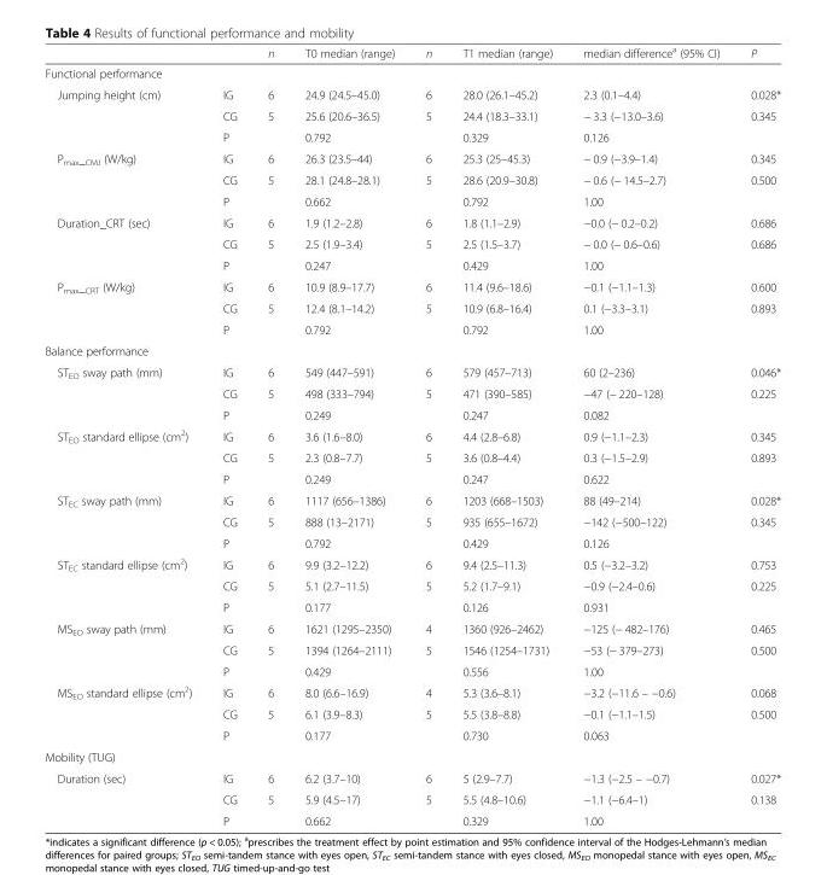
<table><thead><tr><td></td><td></td><td>n</td><td>T0 median (range)</td><td>n</td><td>T1 median (range)</td><td>median difference<sup>a</sup> (95% CI)</td><td>P</td></tr></thead><tbody><tr><td colspan="8">Functional performance</td></tr><tr><td rowspan="3">Jumping height (cm)</td><td>IG</td><td>6</td><td>24.9 (24.5–45.0)</td><td>6</td><td>28.0 (26.1–45.2)</td><td>2.3 (0.1–4.4)</td><td>0.028*</td></tr><tr><td>CG</td><td>5</td><td>25.6 (20.6–36.5)</td><td>5</td><td>24.4 (18.3–33.1)</td><td>− 3.3 (−13.0–3.6)</td><td>0.345</td></tr><tr><td>P</td><td></td><td>0.792</td><td></td><td>0.329</td><td>0.126</td><td></td></tr><tr><td rowspan="3">Pmax_CMJ (W/kg)</td><td>IG</td><td>6</td><td>26.3 (23.5–44)</td><td>6</td><td>25.3 (25–45.3)</td><td>− 0.9 (−3.9–1.4)</td><td>0.345</td></tr><tr><td>CG</td><td>5</td><td>28.1 (24.8–28.1)</td><td>5</td><td>28.6 (20.9–30.8)</td><td>− 0.6 (− 14.5–2.7)</td><td>0.500</td></tr><tr><td>P</td><td></td><td>0.662</td><td></td><td>0.792</td><td>1.00</td><td></td></tr><tr><td rowspan="3">Duration_CRT (sec)</td><td>IG</td><td>6</td><td>1.9 (1.2–2.8)</td><td>6</td><td>1.8 (1.1–2.9)</td><td>−0.0 (− 0.2–0.2)</td><td>0.686</td></tr><tr><td>CG</td><td>5</td><td>2.5 (1.9–3.4)</td><td>5</td><td>2.5 (1.5–3.7)</td><td>− 0.0 (− 0.6–0.6)</td><td>0.686</td></tr><tr><td>P</td><td></td><td>0.247</td><td></td><td>0.429</td><td>1.00</td><td></td></tr><tr><td rowspan="3">Pmax_CRT (W/kg)</td><td>IG</td><td>6</td><td>10.9 (8.9–17.7)</td><td>6</td><td>11.4 (9.6–18.6)</td><td>−0.1 (−1.1–1.3)</td><td>0.600</td></tr><tr><td>CG</td><td>5</td><td>12.4 (8.1–14.2)</td><td>5</td><td>10.9 (6.8–16.4)</td><td>0.1 (−3.3–3.1)</td><td>0.893</td></tr><tr><td>P</td><td></td><td>0.792</td><td></td><td>0.792</td><td>1.00</td><td></td></tr><tr><td colspan="8">Balance performance</td></tr><tr><td rowspan="3">ST<sub>EO</sub> sway path (mm)</td><td>IG</td><td>6</td><td>549 (447–591)</td><td>6</td><td>579 (457–713)</td><td>60 (2–236)</td><td>0.046*</td></tr><tr><td>CG</td><td>5</td><td>498 (333–794)</td><td>5</td><td>471 (390–585)</td><td>−47 (− 220–128)</td><td>0.225</td></tr><tr><td>P</td><td></td><td>0.249</td><td></td><td>0.247</td><td>0.082</td><td></td></tr><tr><td rowspan="3">ST<sub>EO</sub> standard ellipse (cm<sup>2</sup>)</td><td>IG</td><td>6</td><td>3.6 (1.6–8.0)</td><td>6</td><td>4.4 (2.8–6.8)</td><td>0.9 (−1.1–2.3)</td><td>0.345</td></tr><tr><td>CG</td><td>5</td><td>2.3 (0.8–7.7)</td><td>5</td><td>3.6 (0.8–4.4)</td><td>0.3 (−1.5–2.9)</td><td>0.893</td></tr><tr><td>P</td><td></td><td>0.249</td><td></td><td>0.247</td><td>0.622</td><td></td></tr><tr><td rowspan="3">ST<sub>EC</sub> sway path (mm)</td><td>IG</td><td>6</td><td>1117 (656–1386)</td><td>6</td><td>1203 (668–1503)</td><td>88 (49–214)</td><td>0.028*</td></tr><tr><td>CG</td><td>5</td><td>888 (13–2171)</td><td>5</td><td>935 (655–1672)</td><td>−142 (−500–122)</td><td>0.345</td></tr><tr><td>P</td><td></td><td>0.792</td><td></td><td>0.429</td><td>0.126</td><td></td></tr><tr><td rowspan="3">ST<sub>EC</sub> standard ellipse (cm<sup>2</sup>)</td><td>IG</td><td>6</td><td>9.9 (3.2–12.2)</td><td>6</td><td>9.4 (2.5–11.3)</td><td>0.5 (−3.2–3.2)</td><td>0.753</td></tr><tr><td>CG</td><td>5</td><td>5.1 (2.7–11.5)</td><td>5</td><td>5.2 (1.7–9.1)</td><td>−0.9 (−2.4–0.6)</td><td>0.225</td></tr><tr><td>P</td><td></td><td>0.177</td><td></td><td>0.126</td><td>0.931</td><td></td></tr><tr><td rowspan="3">MS<sub>EO</sub> sway path (mm)</td><td>IG</td><td>6</td><td>1621 (1295–2350)</td><td>4</td><td>1360 (926–2462)</td><td>−125 (− 482–176)</td><td>0.465</td></tr><tr><td>CG</td><td>5</td><td>1394 (1264–2111)</td><td>5</td><td>1546 (1254–1731)</td><td>−53 (− 379–273)</td><td>0.500</td></tr><tr><td>P</td><td></td><td>0.429</td><td></td><td>0.556</td><td>1.00</td><td></td></tr><tr><td rowspan="3">MS<sub>EO</sub> standard ellipse (cm<sup>2</sup>)</td><td>IG</td><td>6</td><td>8.0 (6.6–16.9)</td><td>4</td><td>5.3 (3.6–8.1)</td><td>−3.2 (−11.6 – −0.6)</td><td>0.068</td></tr><tr><td>CG</td><td>5</td><td>6.1 (3.9–8.3)</td><td>5</td><td>5.5 (3.8–8.8)</td><td>−0.1 (−1.1–1.5)</td><td>0.500</td></tr><tr><td>P</td><td></td><td>0.177</td><td></td><td>0.730</td><td>0.063</td><td></td></tr><tr><td colspan="8">Mobility (TUG)</td></tr><tr><td rowspan="3">Duration (sec)</td><td>IG</td><td>6</td><td>6.2 (3.7–10)</td><td>6</td><td>5 (2.9–7.7)</td><td>−1.3 (−2.5 – −0.7)</td><td>0.027*</td></tr><tr><td>CG</td><td>5</td><td>5.9 (4.5–17)</td><td>5</td><td>5.5 (4.8–10.6)</td><td>−1.1 (−6.4–1)</td><td>0.138</td></tr><tr><td>P</td><td></td><td>0.662</td><td></td><td>0.329</td><td>1.00</td><td></td></tr></tbody></table>